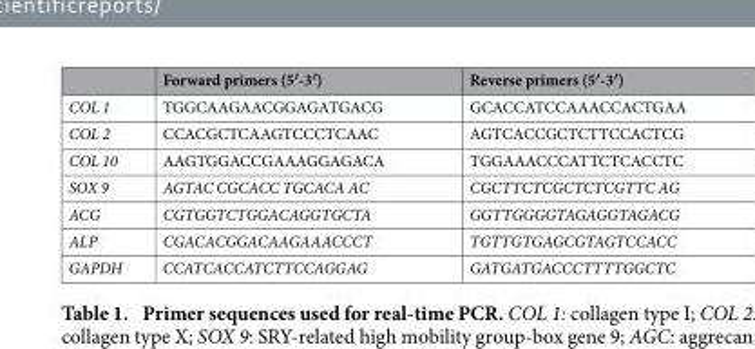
<table><thead><tr><td></td><td>Forward primers (5′-3′)</td><td>Reverse primers (5′-3′)</td></tr></thead><tbody><tr><td>COL 1</td><td>TGGCAAGAACGGAGATGACG</td><td>GCACCATCCAAACCACTGAA</td></tr><tr><td>COL 2</td><td>CCACGCTCAAGTCCCTCAAC</td><td>AGTCACCGCTCTTCCACTCG</td></tr><tr><td>COL 10</td><td>AAGTGGACCGAAAGGAGACA</td><td>TGGAAACCCATTCTCACCTC</td></tr><tr><td>SOX 9</td><td>AGTAC CGCACC TGCACA AC</td><td>CGCTTCTCGCTCTCGTTC AG</td></tr><tr><td>ACG</td><td>CGTGGTCTGGACAGGTGCTA</td><td>GGTTGGGGTAGAGGTAGACG</td></tr><tr><td>ALP</td><td>CGACACGGACAAGAAACCCT</td><td>TGTTGTGAGCGTAGTCCACC</td></tr><tr><td>GAPDH</td><td>CCATCACCATCTTCCAGGAG</td><td>GATGATGACCCTTTTGGCTC</td></tr></tbody></table>